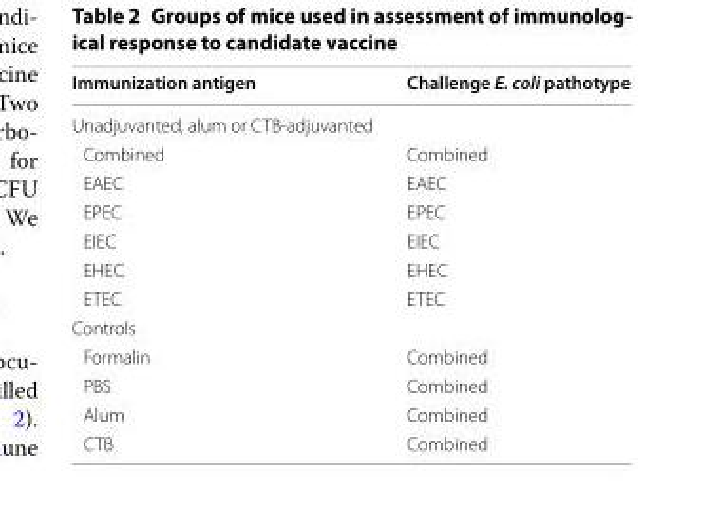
<table><thead><tr><td>Immunization antigen</td><td>Challenge E. coli pathotype</td></tr></thead><tbody><tr><td colspan="2">Unadjuvanted, alum or CTB-adjuvanted</td></tr><tr><td>Combined</td><td>Combined</td></tr><tr><td>EAEC</td><td>EAEC</td></tr><tr><td>EPEC</td><td>EPEC</td></tr><tr><td>EIEC</td><td>EIEC</td></tr><tr><td>EHEC</td><td>EHEC</td></tr><tr><td>ETEC</td><td>ETEC</td></tr><tr><td colspan="2">Controls</td></tr><tr><td>Formalin</td><td>Combined</td></tr><tr><td>PBS</td><td>Combined</td></tr><tr><td>Alum</td><td>Combined</td></tr><tr><td>CTB</td><td>Combined</td></tr></tbody></table>